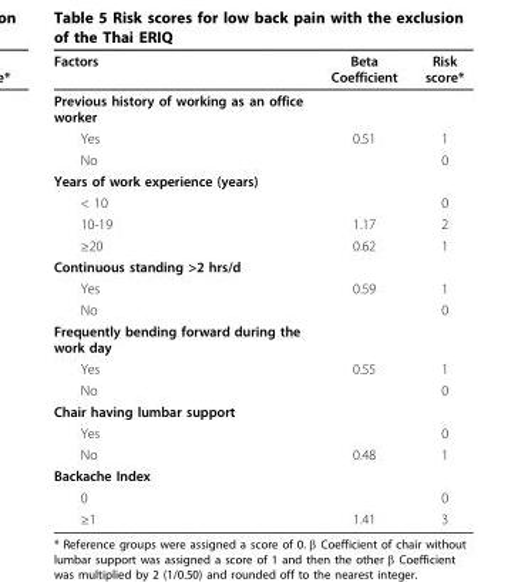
<table><thead><tr><td>Factors</td><td>Beta Coefficient</td><td>Risk score*</td></tr></thead><tbody><tr><td colspan="3">Previous history of working as an office worker</td></tr><tr><td>Yes</td><td>0.51</td><td>1</td></tr><tr><td>No</td><td></td><td>0</td></tr><tr><td colspan="3">Years of work experience (years)</td></tr><tr><td>&lt; 10</td><td></td><td>0</td></tr><tr><td>10-19</td><td>1.17</td><td>2</td></tr><tr><td>≥20</td><td>0.62</td><td>1</td></tr><tr><td colspan="3">Continuous standing &gt;2 hrs/d</td></tr><tr><td>Yes</td><td>0.59</td><td>1</td></tr><tr><td>No</td><td></td><td>0</td></tr><tr><td colspan="3">Frequently bending forward during the work day</td></tr><tr><td>Yes</td><td>0.55</td><td>1</td></tr><tr><td>No</td><td></td><td>0</td></tr><tr><td colspan="3">Chair having lumbar support</td></tr><tr><td>Yes</td><td></td><td>0</td></tr><tr><td>No</td><td>0.48</td><td>1</td></tr><tr><td colspan="3">Backache Index</td></tr><tr><td>0</td><td></td><td>0</td></tr><tr><td>≥1</td><td>1.41</td><td>3</td></tr></tbody></table>